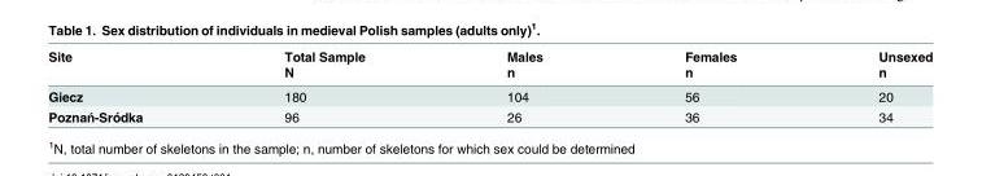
<table><thead><tr><td rowspan="2">Site</td><td rowspan="2">Total Sample N</td><td rowspan="2">Males n</td><td rowspan="2">Females n</td><td rowspan="2">Unsexed n</td></tr><tr></tr></thead><tbody><tr><td>Giecz</td><td>180</td><td>104</td><td>56</td><td>20</td></tr><tr><td>Poznań-Sródka</td><td>96</td><td>26</td><td>36</td><td>34</td></tr></tbody></table>